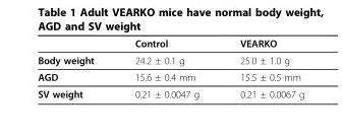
<table><thead><tr><td></td><td>Control</td><td>VEARKO</td></tr></thead><tbody><tr><td>Body weight</td><td>24.2 ± 0.1 g</td><td>25.0 ± 1.0 g</td></tr><tr><td>AGD</td><td>15.6 ± 0.4 mm</td><td>15.5 ± 0.5 mm</td></tr><tr><td>SV weight</td><td>0.21 ± 0.0047 g</td><td>0.21 ± 0.0067 g</td></tr></tbody></table>